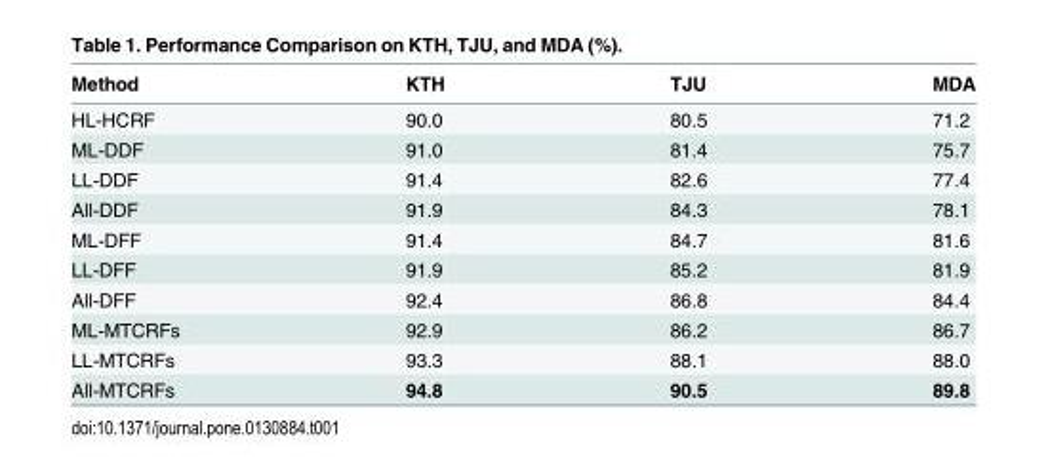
<table><thead><tr><td>Method</td><td>KTH</td><td>TJU</td><td>MDA</td></tr></thead><tbody><tr><td>HL-HCRF</td><td>90.0</td><td>80.5</td><td>71.2</td></tr><tr><td>ML-DDF</td><td>91.0</td><td>81.4</td><td>75.7</td></tr><tr><td>LL-DDF</td><td>91.4</td><td>82.6</td><td>77.4</td></tr><tr><td>All-DDF</td><td>91.9</td><td>84.3</td><td>78.1</td></tr><tr><td>ML-DFF</td><td>91.4</td><td>84.7</td><td>81.6</td></tr><tr><td>LL-DFF</td><td>91.9</td><td>85.2</td><td>81.9</td></tr><tr><td>All-DFF</td><td>92.4</td><td>86.8</td><td>84.4</td></tr><tr><td>ML-MTCRFs</td><td>92.9</td><td>86.2</td><td>86.7</td></tr><tr><td>LL-MTCRFs</td><td>93.3</td><td>88.1</td><td>88.0</td></tr><tr><td>All-MTCRFs</td><td>94.8</td><td>90.5</td><td>89.8</td></tr></tbody></table>